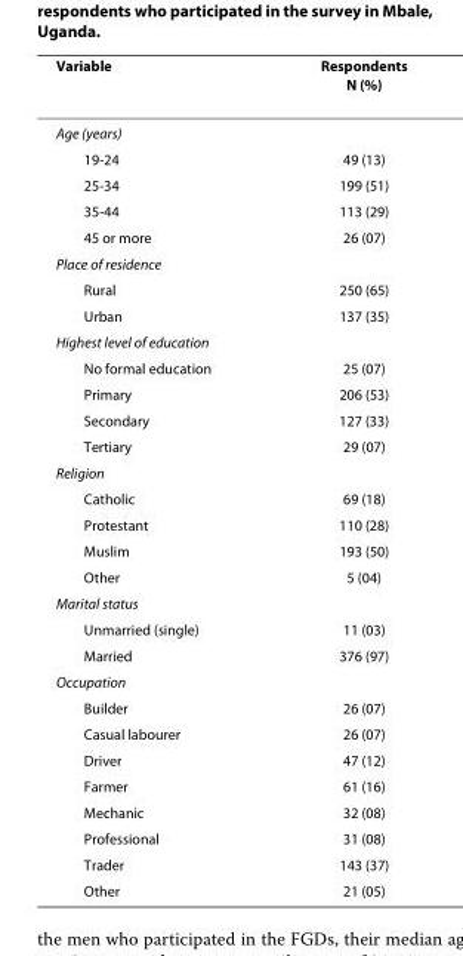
<table><thead><tr><td>Variable</td><td>Respondents N (%)</td></tr></thead><tbody><tr><td colspan="2">Age (years)</td></tr><tr><td>19-24</td><td>49 (13)</td></tr><tr><td>25-34</td><td>199 (51)</td></tr><tr><td>35-44</td><td>113 (29)</td></tr><tr><td>45 or more</td><td>26 (07)</td></tr><tr><td colspan="2">Place of residence</td></tr><tr><td>Rural</td><td>250 (65)</td></tr><tr><td>Urban</td><td>137 (35)</td></tr><tr><td colspan="2">Highest level of education</td></tr><tr><td>No formal education</td><td>25 (07)</td></tr><tr><td>Primary</td><td>206 (53)</td></tr><tr><td>Secondary</td><td>127 (33)</td></tr><tr><td>Tertiary</td><td>29 (07)</td></tr><tr><td colspan="2">Religion</td></tr><tr><td>Catholic</td><td>69 (18)</td></tr><tr><td>Protestant</td><td>110 (28)</td></tr><tr><td>Muslim</td><td>193 (50)</td></tr><tr><td>Other</td><td>5 (04)</td></tr><tr><td colspan="2">Marital status</td></tr><tr><td>Unmarried (single)</td><td>11 (03)</td></tr><tr><td>Married</td><td>376 (97)</td></tr><tr><td colspan="2">Occupation</td></tr><tr><td>Builder</td><td>26 (07)</td></tr><tr><td>Casual labourer</td><td>26 (07)</td></tr><tr><td>Driver</td><td>47 (12)</td></tr><tr><td>Farmer</td><td>61 (16)</td></tr><tr><td>Mechanic</td><td>32 (08)</td></tr><tr><td>Professional</td><td>31 (08)</td></tr><tr><td>Trader</td><td>143 (37)</td></tr><tr><td>Other</td><td>21 (05)</td></tr></tbody></table>